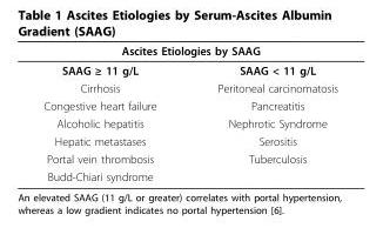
<table><thead><tr><td colspan="2">Ascites Etiologies by SAAG</td></tr><tr><td>SAAG ≥ 11 g/L</td><td>SAAG &lt; 11 g/L</td></tr></thead><tbody><tr><td>Cirrhosis</td><td>Peritoneal carcinomatosis</td></tr><tr><td>Congestive heart failure</td><td>Pancreatitis</td></tr><tr><td>Alcoholic hepatitis</td><td>Nephrotic Syndrome</td></tr><tr><td>Hepatic metastases</td><td>Serositis</td></tr><tr><td>Portal vein thrombosis</td><td>Tuberculosis</td></tr><tr><td>Budd-Chiari syndrome</td><td></td></tr></tbody></table>